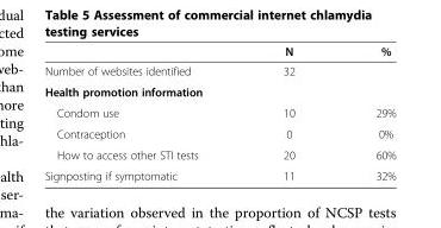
<table><thead><tr><td></td><td>N</td><td>%</td></tr></thead><tbody><tr><td>Number of websites identified</td><td>32</td><td></td></tr><tr><td colspan="3">Health promotion information</td></tr><tr><td>Condom use</td><td>10</td><td>29%</td></tr><tr><td>Contraception</td><td>0</td><td>0%</td></tr><tr><td>How to access other STI tests</td><td>20</td><td>60%</td></tr><tr><td>Signposting if symptomatic</td><td>11</td><td>32%</td></tr></tbody></table>